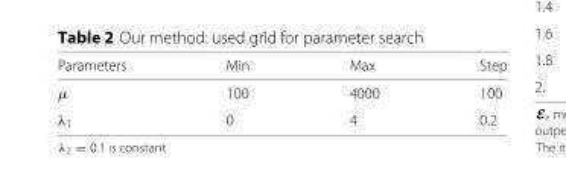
<table><thead><tr><td>Parameters</td><td>Min</td><td>Max</td><td>Step</td></tr></thead><tbody><tr><td>μ</td><td>100</td><td>4000</td><td>100</td></tr><tr><td>λ<sub>1</sub></td><td>0</td><td>4</td><td>0.2</td></tr></tbody></table>